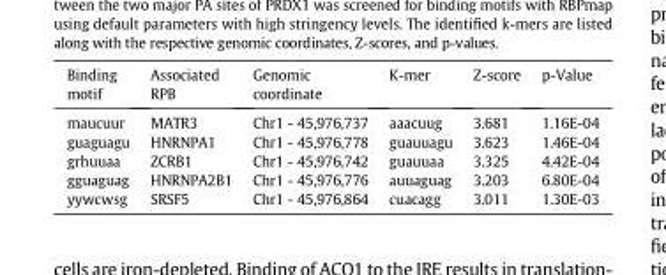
<table><thead><tr><td>Binding motif</td><td>Associated RPB</td><td>Genomic coordinate</td><td>K-mer</td><td>Z-score</td><td>p-Value</td></tr></thead><tbody><tr><td>maucuur</td><td>MATR3</td><td>Chr1 - 45,976,737</td><td>aaacuug</td><td>3.681</td><td>1.16E-04</td></tr><tr><td>guaguagu</td><td>HNRNPA1</td><td>Chr1 - 45,976,778</td><td>guauuagu</td><td>3.623</td><td>1.46E-04</td></tr><tr><td>grhuuaa</td><td>ZCRB1</td><td>Chr1 - 45,976,742</td><td>guauuaa</td><td>3.325</td><td>4.42E-04</td></tr><tr><td>gguaguag</td><td>HNRNPA2B1</td><td>Chr1 - 45,976,776</td><td>auuaguag</td><td>3.203</td><td>6.80E-04</td></tr><tr><td>yywcwsg</td><td>SRSF5</td><td>Chr1 - 45,976,864</td><td>cuacagg</td><td>3.011</td><td>1.30E-03</td></tr></tbody></table>